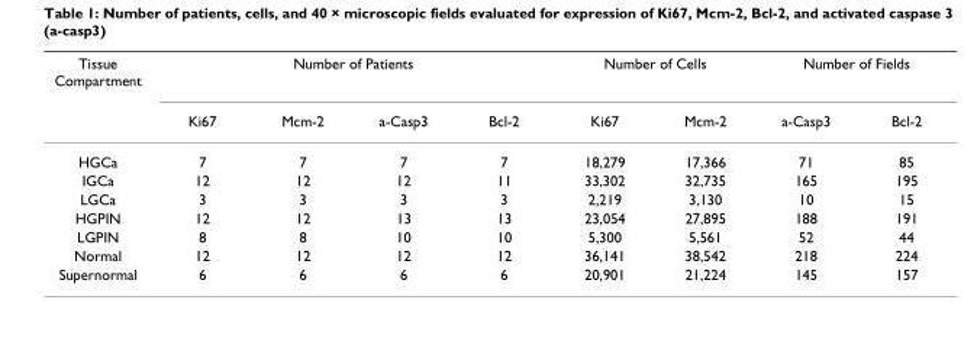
<table><thead><tr><td rowspan="2">Tissue Compartment</td><td colspan="4">Number of Patients</td><td colspan="2">Number of Cells</td><td colspan="2">Number of Fields</td></tr><tr><td>Ki67</td><td>Mcm-2</td><td>a-Casp3</td><td>Bcl-2</td><td>Ki67</td><td>Mcm-2</td><td>a-Casp3</td><td>Bcl-2</td></tr></thead><tbody><tr><td>HGCa</td><td>7</td><td>7</td><td>7</td><td>7</td><td>18,279</td><td>17,366</td><td>71</td><td>85</td></tr><tr><td>IGCa</td><td>12</td><td>12</td><td>12</td><td>11</td><td>33,302</td><td>32,735</td><td>165</td><td>195</td></tr><tr><td>LGCa</td><td>3</td><td>3</td><td>3</td><td>3</td><td>2,219</td><td>3,130</td><td>10</td><td>15</td></tr><tr><td>HGPIN</td><td>12</td><td>12</td><td>13</td><td>13</td><td>23,054</td><td>27,895</td><td>188</td><td>191</td></tr><tr><td>LGPIN</td><td>8</td><td>8</td><td>10</td><td>10</td><td>5,300</td><td>5,561</td><td>52</td><td>44</td></tr><tr><td>Normal</td><td>12</td><td>12</td><td>12</td><td>12</td><td>36,141</td><td>38,542</td><td>218</td><td>224</td></tr><tr><td>Supernormal</td><td>6</td><td>6</td><td>6</td><td>6</td><td>20,901</td><td>21,224</td><td>145</td><td>157</td></tr></tbody></table>